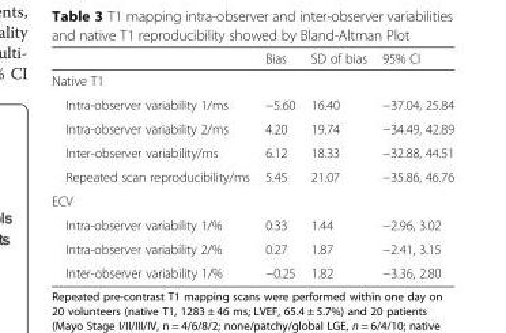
<table><thead><tr><td></td><td>Bias</td><td>SD of bias</td><td>95% CI</td></tr></thead><tbody><tr><td colspan="4">Native T1</td></tr><tr><td>Intra-observer variability 1/ms</td><td>−5.60</td><td>16.40</td><td>−37.04, 25.84</td></tr><tr><td>Intra-observer variability 2/ms</td><td>4.20</td><td>19.74</td><td>−34.49, 42.89</td></tr><tr><td>Inter-observer variability/ms</td><td>6.12</td><td>18.33</td><td>−32.88, 44.51</td></tr><tr><td>Repeated scan reproducibility/ms</td><td>5.45</td><td>21.07</td><td>−35.86, 46.76</td></tr><tr><td colspan="4">ECV</td></tr><tr><td>Intra-observer variability 1/%</td><td>0.33</td><td>1.44</td><td>−2.96, 3.02</td></tr><tr><td>Intra-observer variability 2/%</td><td>0.27</td><td>1.87</td><td>−2.41, 3.15</td></tr><tr><td>Inter-observer variability 1/%</td><td>−0.25</td><td>1.82</td><td>−3.36, 2.80</td></tr></tbody></table>